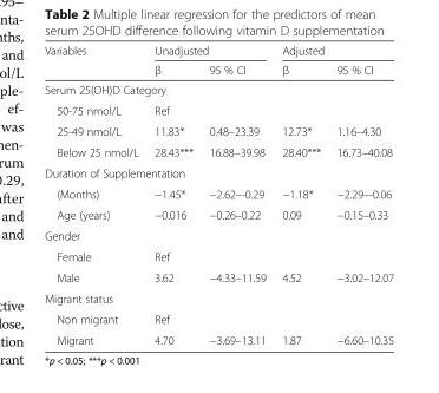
<table><thead><tr><td rowspan="2">Variables</td><td colspan="2">Unadjusted</td><td colspan="2">Adjusted</td></tr><tr><td>β</td><td>95 % CI</td><td>β</td><td>95 % CI</td></tr></thead><tbody><tr><td colspan="5">Serum 25(OH)D Category</td></tr><tr><td>50-75 nmol/L</td><td>Ref</td><td></td><td></td><td></td></tr><tr><td>25-49 nmol/L</td><td>11.83*</td><td>0.48–23.39</td><td>12.73*</td><td>1.16–4.30</td></tr><tr><td>Below 25 nmol/L</td><td>28.43***</td><td>16.88–39.98</td><td>28.40***</td><td>16.73–40.08</td></tr><tr><td colspan="5">Duration of Supplementation</td></tr><tr><td>(Months)</td><td>−1.45*</td><td>−2.62–-0.29</td><td>−1.18*</td><td>−2.29–-0.06</td></tr><tr><td>Age (years)</td><td>−0.016</td><td>−0.26–0.22</td><td>0.09</td><td>−0.15–0.33</td></tr><tr><td colspan="5">Gender</td></tr><tr><td>Female</td><td>Ref</td><td></td><td></td><td></td></tr><tr><td>Male</td><td>3.62</td><td>−4.33–11.59</td><td>4.52</td><td>−3.02–12.07</td></tr><tr><td colspan="5">Migrant status</td></tr><tr><td>Non migrant</td><td>Ref</td><td></td><td></td><td></td></tr><tr><td>Migrant</td><td>4.70</td><td>−3.69–13.11</td><td>1.87</td><td>−6.60–10.35</td></tr></tbody></table>